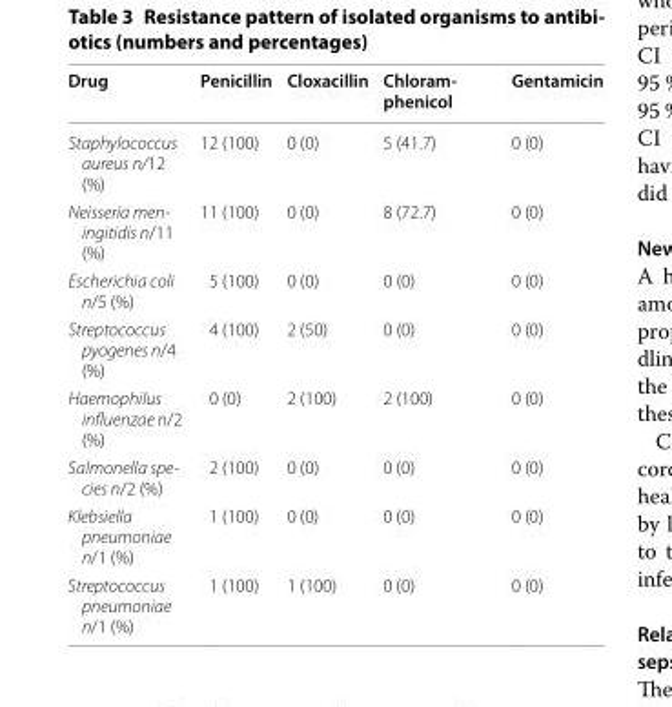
<table><thead><tr><td>Drug</td><td>Penicillin</td><td>Cloxacillin</td><td>Chloram- phenicol</td><td>Gentamicin</td></tr></thead><tbody><tr><td>Staphylococcus aureus n/12 (%)</td><td>12 (100)</td><td>0 (0)</td><td>5 (41.7)</td><td>0 (0)</td></tr><tr><td>Neisseria men- ingitidis n/11 (%)</td><td>11 (100)</td><td>0 (0)</td><td>8 (72.7)</td><td>0 (0)</td></tr><tr><td>Escherichia coli n/5 (%)</td><td>5 (100)</td><td>0 (0)</td><td>0 (0)</td><td>0 (0)</td></tr><tr><td>Streptococcus pyogenes n/4 (%)</td><td>4 (100)</td><td>2 (50)</td><td>0 (0)</td><td>0 (0)</td></tr><tr><td>Haemophilus influenzae n/2 (%)</td><td>0 (0)</td><td>2 (100)</td><td>2 (100)</td><td>0 (0)</td></tr><tr><td>Salmonella spe- cies n/2 (%)</td><td>2 (100)</td><td>0 (0)</td><td>0 (0)</td><td>0 (0)</td></tr><tr><td>Klebsiella pneumoniae n/1 (%)</td><td>1 (100)</td><td>0 (0)</td><td>0 (0)</td><td>0 (0)</td></tr><tr><td>Streptococcus pneumoniae n/1 (%)</td><td>1 (100)</td><td>1 (100)</td><td>0 (0)</td><td>0 (0)</td></tr></tbody></table>